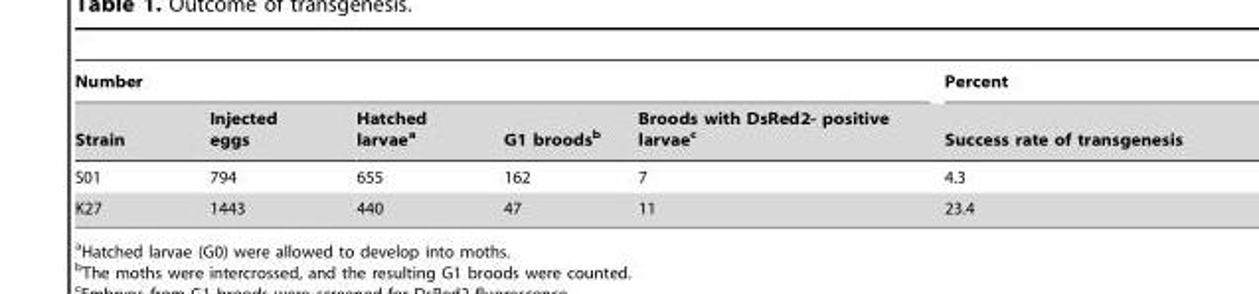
<table><thead><tr><td colspan="5">Number</td><td rowspan="2">Percent Success rate of transgenesis</td></tr><tr><td>Strain</td><td>Injected eggs</td><td>Hatched larvae<sup>a</sup></td><td>G1 broods<sup>b</sup></td><td>Broods with DsRed2- positive larvae<sup>c</sup></td></tr></thead><tbody><tr><td>S01</td><td>794</td><td>655</td><td>162</td><td>7</td><td>4.3</td></tr><tr><td>K27</td><td>1443</td><td>440</td><td>47</td><td>11</td><td>23.4</td></tr></tbody></table>